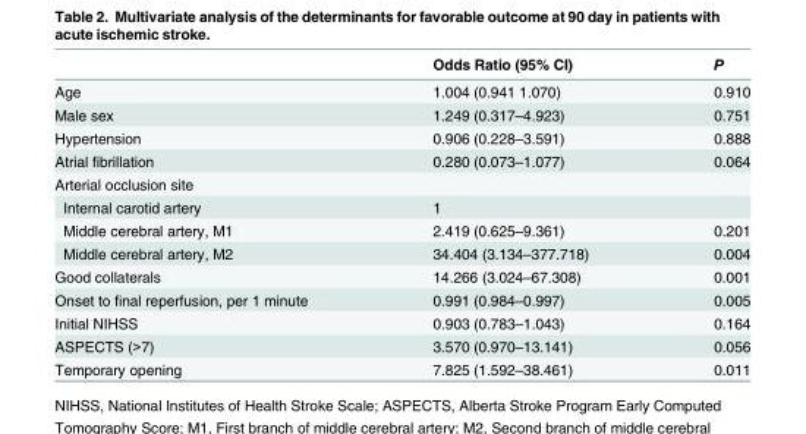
<table><thead><tr><td></td><td>Odds Ratio (95% CI)</td><td>P</td></tr></thead><tbody><tr><td>Age</td><td>1.004 (0.941 1.070)</td><td>0.910</td></tr><tr><td>Male sex</td><td>1.249 (0.317–4.923)</td><td>0.751</td></tr><tr><td>Hypertension</td><td>0.906 (0.228–3.591)</td><td>0.888</td></tr><tr><td>Atrial fibrillation</td><td>0.280 (0.073–1.077)</td><td>0.064</td></tr><tr><td colspan="3">Arterial occlusion site</td></tr><tr><td>Internal carotid artery</td><td>1</td><td></td></tr><tr><td>Middle cerebral artery, M1</td><td>2.419 (0.625–9.361)</td><td>0.201</td></tr><tr><td>Middle cerebral artery, M2</td><td>34.404 (3.134–377.718)</td><td>0.004</td></tr><tr><td>Good collaterals</td><td>14.266 (3.024–67.308)</td><td>0.001</td></tr><tr><td>Onset to final reperfusion, per 1 minute</td><td>0.991 (0.984–0.997)</td><td>0.005</td></tr><tr><td>Initial NIHSS</td><td>0.903 (0.783–1.043)</td><td>0.164</td></tr><tr><td>ASPECTS (&gt;7)</td><td>3.570 (0.970–13.141)</td><td>0.056</td></tr><tr><td>Temporary opening</td><td>7.825 (1.592–38.461)</td><td>0.011</td></tr></tbody></table>